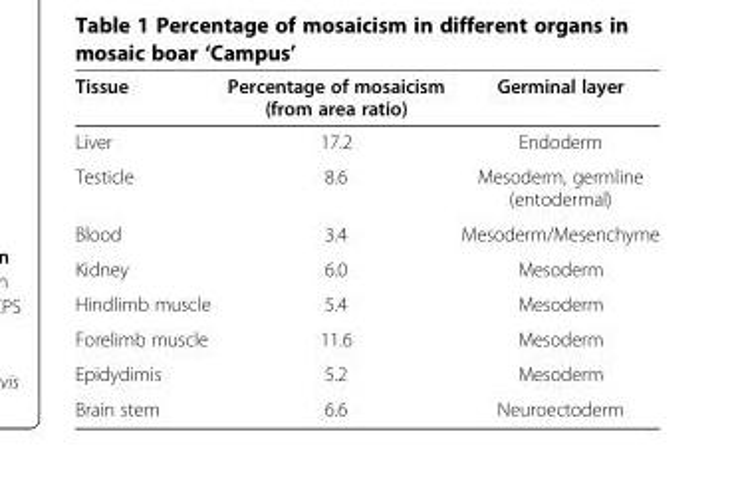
<table><thead><tr><td>Tissue</td><td>Percentage of mosaicism (from area ratio)</td><td>Germinal layer</td></tr></thead><tbody><tr><td>Liver</td><td>17.2</td><td>Endoderm</td></tr><tr><td>Testicle</td><td>8.6</td><td>Mesoderm, germline (entodermal)</td></tr><tr><td>Blood</td><td>3.4</td><td>Mesoderm/Mesenchyme</td></tr><tr><td>Kidney</td><td>6.0</td><td>Mesoderm</td></tr><tr><td>Hindlimb muscle</td><td>5.4</td><td>Mesoderm</td></tr><tr><td>Forelimb muscle</td><td>11.6</td><td>Mesoderm</td></tr><tr><td>Epidydimis</td><td>5.2</td><td>Mesoderm</td></tr><tr><td>Brain stem</td><td>6.6</td><td>Neuroectoderm</td></tr></tbody></table>